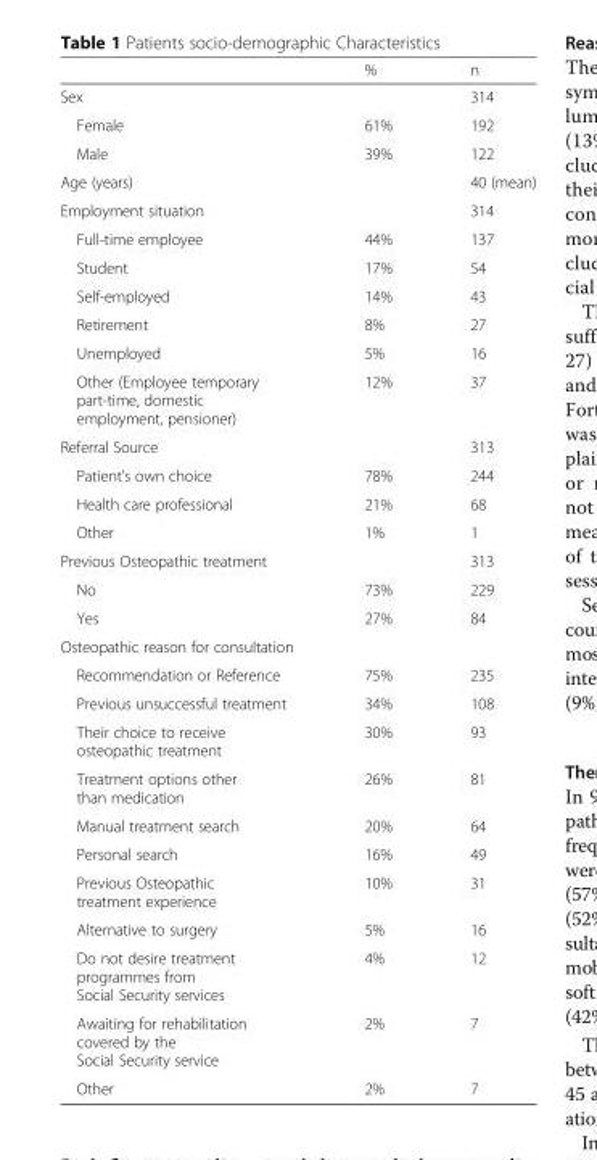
<table><thead><tr><td></td><td>%</td><td>n</td></tr></thead><tbody><tr><td>Sex</td><td></td><td>314</td></tr><tr><td>Female</td><td>61%</td><td>192</td></tr><tr><td>Male</td><td>39%</td><td>122</td></tr><tr><td>Age (years)</td><td></td><td>40 (mean)</td></tr><tr><td>Employment situation</td><td></td><td>314</td></tr><tr><td>Full-time employee</td><td>44%</td><td>137</td></tr><tr><td>Student</td><td>17%</td><td>54</td></tr><tr><td>Self-employed</td><td>14%</td><td>43</td></tr><tr><td>Retirement</td><td>8%</td><td>27</td></tr><tr><td>Unemployed</td><td>5%</td><td>16</td></tr><tr><td>Other (Employee temporary part-time, domestic employment, pensioner)</td><td>12%</td><td>37</td></tr><tr><td>Referral Source</td><td></td><td>313</td></tr><tr><td>Patient’s own choice</td><td>78%</td><td>244</td></tr><tr><td>Health care professional</td><td>21%</td><td>68</td></tr><tr><td>Other</td><td>1%</td><td>1</td></tr><tr><td>Previous Osteopathic treatment</td><td></td><td>313</td></tr><tr><td>No</td><td>73%</td><td>229</td></tr><tr><td>Yes</td><td>27%</td><td>84</td></tr><tr><td colspan="3">Osteopathic reason for consultation</td></tr><tr><td>Recommendation or Reference</td><td>75%</td><td>235</td></tr><tr><td>Previous unsuccessful treatment</td><td>34%</td><td>108</td></tr><tr><td>Their choice to receive osteopathic treatment</td><td>30%</td><td>93</td></tr><tr><td>Treatment options other than medication</td><td>26%</td><td>81</td></tr><tr><td>Manual treatment search</td><td>20%</td><td>64</td></tr><tr><td>Personal search</td><td>16%</td><td>49</td></tr><tr><td>Previous Osteopathic treatment experience</td><td>10%</td><td>31</td></tr><tr><td>Alternative to surgery</td><td>5%</td><td>16</td></tr><tr><td>Do not desire treatment programmes from Social Security services</td><td>4%</td><td>12</td></tr><tr><td>Awaiting for rehabilitation covered by the Social Security service</td><td>2%</td><td>7</td></tr><tr><td>Other</td><td>2%</td><td>7</td></tr></tbody></table>